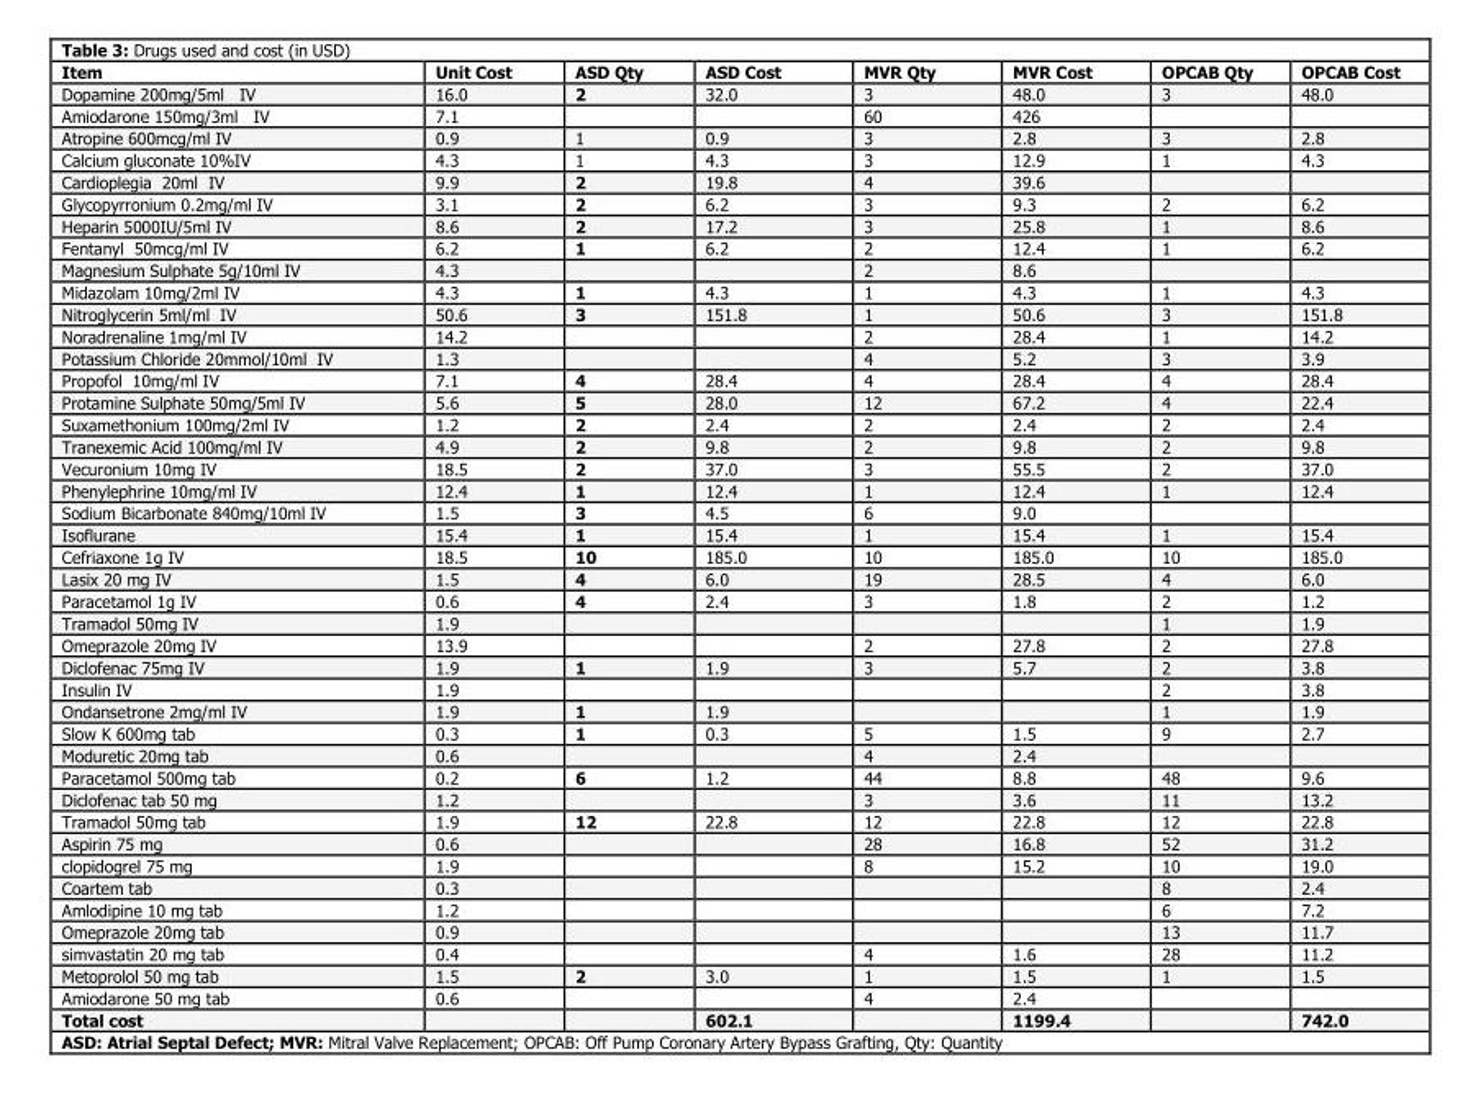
<table><thead><tr><td>Item</td><td>Unit Cost</td><td>ASD Qty</td><td>ASD Cost</td><td>MVR Qty</td><td>MVR Cost</td><td>OPCAB Qty</td><td>OPCAB Cost</td></tr></thead><tbody><tr><td>Dopamine 200mg/5ml IV</td><td>16.0</td><td>2</td><td>32.0</td><td>3</td><td>48.0</td><td>3</td><td>48.0</td></tr><tr><td>Amiodarone 150mg/3ml IV</td><td>7.1</td><td></td><td></td><td>60</td><td>426</td><td></td><td></td></tr><tr><td>Atropine 600mcg/ml IV</td><td>0.9</td><td>1</td><td>0.9</td><td>3</td><td>2.8</td><td>3</td><td>2.8</td></tr><tr><td>Calcium gluconate 10%IV</td><td>4.3</td><td>1</td><td>4.3</td><td>3</td><td>12.9</td><td>1</td><td>4.3</td></tr><tr><td>Cardioplegia 20ml IV</td><td>9.9</td><td>2</td><td>19.8</td><td>4</td><td>39.6</td><td></td><td></td></tr><tr><td>Glycopyrronium 0.2mg/ml IV</td><td>3.1</td><td>2</td><td>6.2</td><td>3</td><td>9.3</td><td>2</td><td>6.2</td></tr><tr><td>Heparin 5000IU/5ml IV</td><td>8.6</td><td>2</td><td>17.2</td><td>3</td><td>25.8</td><td>1</td><td>8.6</td></tr><tr><td>Fentanyl 50mcg/ml IV</td><td>6.2</td><td>1</td><td>6.2</td><td>2</td><td>12.4</td><td>1</td><td>6.2</td></tr><tr><td>Magnesium Sulphate 5g/10ml IV</td><td>4.3</td><td></td><td></td><td>2</td><td>8.6</td><td></td><td></td></tr><tr><td>Midazolam 10mg/2ml IV</td><td>4.3</td><td>1</td><td>4.3</td><td>1</td><td>4.3</td><td>1</td><td>4.3</td></tr><tr><td>Nitroglycerin 5ml/ml IV</td><td>50.6</td><td>3</td><td>151.8</td><td>1</td><td>50.6</td><td>3</td><td>151.8</td></tr><tr><td>Noradrenaline 1mg/ml IV</td><td>14.2</td><td></td><td></td><td>2</td><td>28.4</td><td>1</td><td>14.2</td></tr><tr><td>Potassium Chloride 20mmol/10ml IV</td><td>1.3</td><td></td><td></td><td>4</td><td>5.2</td><td>3</td><td>3.9</td></tr><tr><td>Propofol 10mg/ml IV</td><td>7.1</td><td>4</td><td>28.4</td><td>4</td><td>28.4</td><td>4</td><td>28.4</td></tr><tr><td>Protamine Sulphate 50mg/5ml IV</td><td>5.6</td><td>5</td><td>28.0</td><td>12</td><td>67.2</td><td>4</td><td>22.4</td></tr><tr><td>Suxamethonium 100mg/2ml IV</td><td>1.2</td><td>2</td><td>2.4</td><td>2</td><td>2.4</td><td>2</td><td>2.4</td></tr><tr><td>Tranexemic Acid 100mg/ml IV</td><td>4.9</td><td>2</td><td>9.8</td><td>2</td><td>9.8</td><td>2</td><td>9.8</td></tr><tr><td>Vecuronium 10mg IV</td><td>18.5</td><td>2</td><td>37.0</td><td>3</td><td>55.5</td><td>2</td><td>37.0</td></tr><tr><td>Phenylephrine 10mg/ml IV</td><td>12.4</td><td>1</td><td>12.4</td><td>1</td><td>12.4</td><td>1</td><td>12.4</td></tr><tr><td>Sodium Bicarbonate 840mg/10ml IV</td><td>1.5</td><td>3</td><td>4.5</td><td>6</td><td>9.0</td><td></td><td></td></tr><tr><td>Isoflurane</td><td>15.4</td><td>1</td><td>15.4</td><td>1</td><td>15.4</td><td>1</td><td>15.4</td></tr><tr><td>Cefriaxone 1g IV</td><td>18.5</td><td>10</td><td>185.0</td><td>10</td><td>185.0</td><td>10</td><td>185.0</td></tr><tr><td>Lasix 20 mg IV</td><td>1.5</td><td>4</td><td>6.0</td><td>19</td><td>28.5</td><td>4</td><td>6.0</td></tr><tr><td>Paracetamol 1g IV</td><td>0.6</td><td>4</td><td>2.4</td><td>3</td><td>1.8</td><td>2</td><td>1.2</td></tr><tr><td>Tramadol 50mg IV</td><td>1.9</td><td></td><td></td><td></td><td></td><td>1</td><td>1.9</td></tr><tr><td>Omeprazole 20mg IV</td><td>13.9</td><td></td><td></td><td>2</td><td>27.8</td><td>2</td><td>27.8</td></tr><tr><td>Diclofenac 75mg IV</td><td>1.9</td><td>1</td><td>1.9</td><td>3</td><td>5.7</td><td>2</td><td>3.8</td></tr><tr><td>Insulin IV</td><td>1.9</td><td></td><td></td><td></td><td></td><td>2</td><td>3.8</td></tr><tr><td>Ondansetrone 2mg/ml IV</td><td>1.9</td><td>1</td><td>1.9</td><td></td><td></td><td>1</td><td>1.9</td></tr><tr><td>Slow K 600mg tab</td><td>0.3</td><td>1</td><td>0.3</td><td>5</td><td>1.5</td><td>9</td><td>2.7</td></tr><tr><td>Moduretic 20mg tab</td><td>0.6</td><td></td><td></td><td>4</td><td>2.4</td><td></td><td></td></tr><tr><td>Paracetamol 500mg tab</td><td>0.2</td><td>6</td><td>1.2</td><td>44</td><td>8.8</td><td>48</td><td>9.6</td></tr><tr><td>Diclofenac tab 50 mg</td><td>1.2</td><td></td><td></td><td>3</td><td>3.6</td><td>11</td><td>13.2</td></tr><tr><td>Tramadol 50mg tab</td><td>1.9</td><td>12</td><td>22.8</td><td>12</td><td>22.8</td><td>12</td><td>22.8</td></tr><tr><td>Aspirin 75 mg</td><td>0.6</td><td></td><td></td><td>28</td><td>16.8</td><td>52</td><td>31.2</td></tr><tr><td>clopidogrel 75 mg</td><td>1.9</td><td></td><td></td><td>8</td><td>15.2</td><td>10</td><td>19.0</td></tr><tr><td>Coartem tab</td><td>0.3</td><td></td><td></td><td></td><td></td><td>8</td><td>2.4</td></tr><tr><td>Amlodipine 10 mg tab</td><td>1.2</td><td></td><td></td><td></td><td></td><td>6</td><td>7.2</td></tr><tr><td>Omeprazole 20mg tab</td><td>0.9</td><td></td><td></td><td></td><td></td><td>13</td><td>11.7</td></tr><tr><td>simvastatin 20 mg tab</td><td>0.4</td><td></td><td></td><td>4</td><td>1.6</td><td>28</td><td>11.2</td></tr><tr><td>Metoprolol 50 mg tab</td><td>1.5</td><td>2</td><td>3.0</td><td>1</td><td>1.5</td><td>1</td><td>1.5</td></tr><tr><td>Amiodarone 50 mg tab</td><td>0.6</td><td></td><td></td><td>4</td><td>2.4</td><td></td><td></td></tr><tr><td>Total cost</td><td></td><td></td><td>602.1</td><td></td><td>1199.4</td><td></td><td>742.0</td></tr></tbody></table>